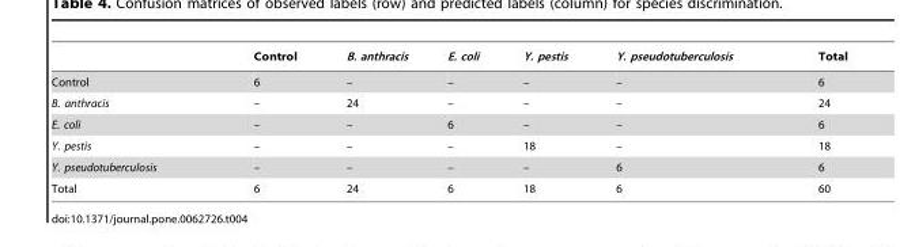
<table><thead><tr><td></td><td>Control</td><td>B. anthracis</td><td>E. coli</td><td>Y. pestis</td><td>Y. pseudotuberculosis</td><td>Total</td></tr></thead><tbody><tr><td>Control</td><td>6</td><td>–</td><td>–</td><td>–</td><td>–</td><td>6</td></tr><tr><td>B. anthracis</td><td>–</td><td>24</td><td>–</td><td>–</td><td>–</td><td>24</td></tr><tr><td>E. coli</td><td>–</td><td>–</td><td>6</td><td>–</td><td>–</td><td>6</td></tr><tr><td>Y. pestis</td><td>–</td><td>–</td><td>–</td><td>18</td><td>–</td><td>18</td></tr><tr><td>Y. pseudotuberculosis</td><td>–</td><td>–</td><td>–</td><td>–</td><td>6</td><td>6</td></tr><tr><td>Total</td><td>6</td><td>24</td><td>6</td><td>18</td><td>6</td><td>60</td></tr></tbody></table>